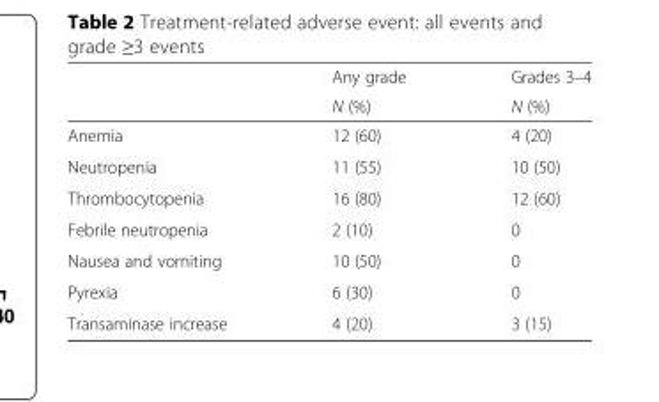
<table><thead><tr><td rowspan="2"></td><td rowspan="2">Any grade N (%)</td><td rowspan="2">Grades 3–4 N (%)</td></tr><tr></tr></thead><tbody><tr><td>Anemia</td><td>12 (60)</td><td>4 (20)</td></tr><tr><td>Neutropenia</td><td>11 (55)</td><td>10 (50)</td></tr><tr><td>Thrombocytopenia</td><td>16 (80)</td><td>12 (60)</td></tr><tr><td>Febrile neutropenia</td><td>2 (10)</td><td>0</td></tr><tr><td>Nausea and vomiting</td><td>10 (50)</td><td>0</td></tr><tr><td>Pyrexia</td><td>6 (30)</td><td>0</td></tr><tr><td>Transaminase increase</td><td>4 (20)</td><td>3 (15)</td></tr></tbody></table>